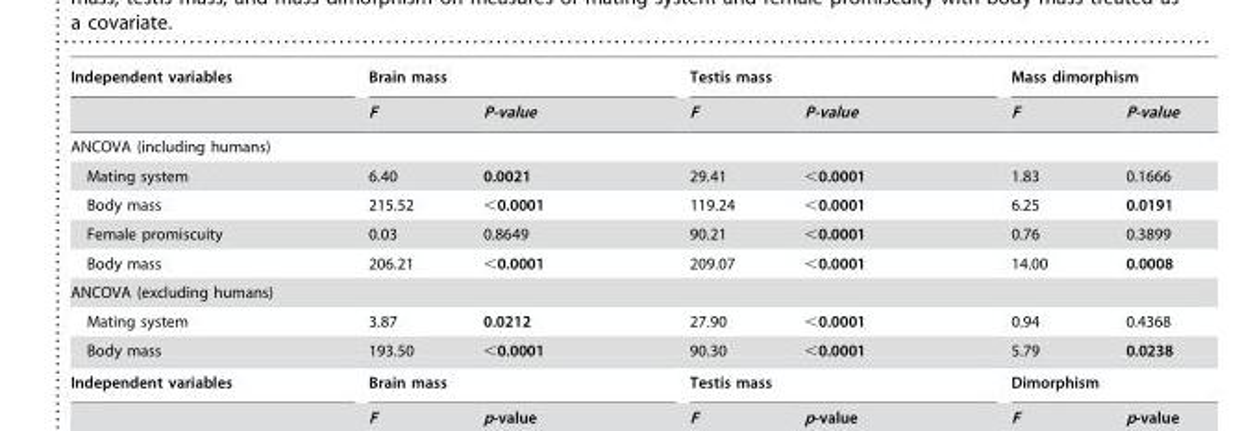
<table><thead><tr><td rowspan="2">Independent variables</td><td colspan="2">Brain mass</td><td colspan="2">Testis mass</td><td colspan="2">Mass dimorphism</td></tr><tr><td>F</td><td>P-value</td><td>F</td><td>P-value</td><td>F</td><td>P-value</td></tr></thead><tbody><tr><td colspan="7">ANCOVA (including humans)</td></tr><tr><td>Mating system</td><td>6.40</td><td>0.0021</td><td>29.41</td><td>&lt;0.0001</td><td>1.83</td><td>0.1666</td></tr><tr><td>Body mass</td><td>215.52</td><td>&lt;0.0001</td><td>119.24</td><td>&lt;0.0001</td><td>6.25</td><td>0.0191</td></tr><tr><td>Female promiscuity</td><td>0.03</td><td>0.8649</td><td>90.21</td><td>&lt;0.0001</td><td>0.76</td><td>0.3899</td></tr><tr><td>Body mass</td><td>206.21</td><td>&lt;0.0001</td><td>209.07</td><td>&lt;0.0001</td><td>14.00</td><td>0.0008</td></tr><tr><td colspan="7">ANCOVA (excluding humans)</td></tr><tr><td>Mating system</td><td>3.87</td><td>0.0212</td><td>27.90</td><td>&lt;0.0001</td><td>0.94</td><td>0.4368</td></tr><tr><td>Body mass</td><td>193.50</td><td>&lt;0.0001</td><td>90.30</td><td>&lt;0.0001</td><td>5.79</td><td>0.0238</td></tr></tbody></table>